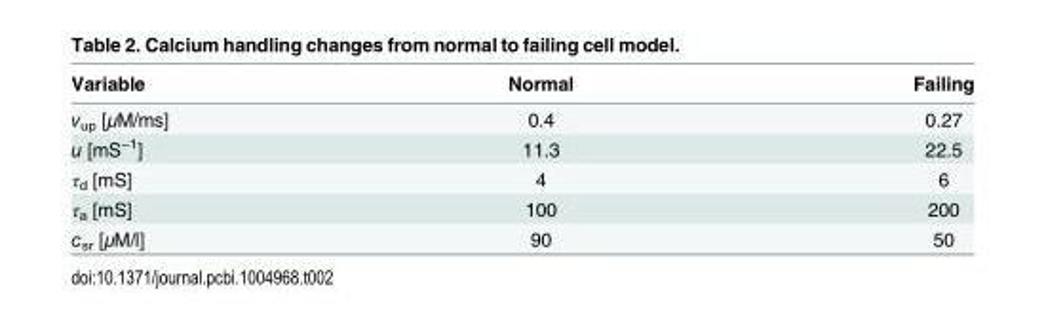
<table><thead><tr><td>Variable</td><td>Normal</td><td>Failing</td></tr></thead><tbody><tr><td>v<sub>up</sub> [μM/ms]</td><td>0.4</td><td>0.27</td></tr><tr><td>u [mS<sup>−1</sup>]</td><td>11.3</td><td>22.5</td></tr><tr><td>τ<sub>d</sub> [mS]</td><td>4</td><td>6</td></tr><tr><td>τ<sub>a</sub> [mS]</td><td>100</td><td>200</td></tr><tr><td>c<sub>sr</sub> [μM/l]</td><td>90</td><td>50</td></tr></tbody></table>